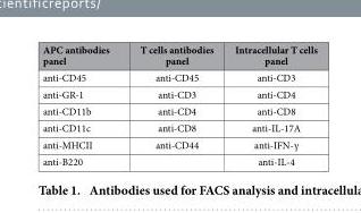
<table><thead><tr><td>APC antibodies panel</td><td>T cells antibodies panel</td><td>Intracellular T cells panel</td></tr></thead><tbody><tr><td>anti-CD45</td><td>anti-CD45</td><td>anti-CD3</td></tr><tr><td>anti-GR-1</td><td>anti-CD3</td><td>anti-CD4</td></tr><tr><td>anti-CD11b</td><td>anti-CD4</td><td>anti-CD8</td></tr><tr><td>anti-CD11c</td><td>anti-CD8</td><td>anti-IL-17A</td></tr><tr><td>anti-MHCII</td><td>anti-CD44</td><td>anti-IFN-γ</td></tr><tr><td>anti-B220</td><td></td><td>anti-IL-4</td></tr></tbody></table>